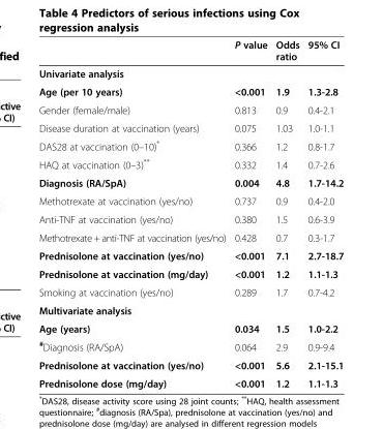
<table><thead><tr><td></td><td>P value</td><td>Odds ratio</td><td>95% CI</td></tr></thead><tbody><tr><td colspan="4">Univariate analysis</td></tr><tr><td>Age (per 10 years)</td><td>&lt;0.001</td><td>1.9</td><td>1.3-2.8</td></tr><tr><td>Gender (female/male)</td><td>0.813</td><td>0.9</td><td>0.4-2.1</td></tr><tr><td>Disease duration at vaccination (years)</td><td>0.075</td><td>1.03</td><td>1.0-1.1</td></tr><tr><td>DAS28 at vaccination (0–10)*</td><td>0.366</td><td>1.2</td><td>0.8-1.7</td></tr><tr><td>HAQ at vaccination (0–3)**</td><td>0.332</td><td>1.4</td><td>0.7-2.6</td></tr><tr><td>Diagnosis (RA/SpA)</td><td>0.004</td><td>4.8</td><td>1.7-14.2</td></tr><tr><td>Methotrexate at vaccination (yes/no)</td><td>0.737</td><td>0.9</td><td>0.4-2.0</td></tr><tr><td>Anti-TNF at vaccination (yes/no)</td><td>0.380</td><td>1.5</td><td>0.6-3.9</td></tr><tr><td>Methotrexate + anti-TNF at vaccination (yes/no)</td><td>0.428</td><td>0.7</td><td>0.3-1.7</td></tr><tr><td>Prednisolone at vaccination (yes/no)</td><td>&lt;0.001</td><td>7.1</td><td>2.7-18.7</td></tr><tr><td>Prednisolone at vaccination (mg/day)</td><td>&lt;0.001</td><td>1.2</td><td>1.1-1.3</td></tr><tr><td>Smoking at vaccination (yes/no)</td><td>0.289</td><td>1.7</td><td>0.7-4.2</td></tr><tr><td colspan="4">Multivariate analysis</td></tr><tr><td>Age (years)</td><td>0.034</td><td>1.5</td><td>1.0-2.2</td></tr><tr><td><sup>#</sup>Diagnosis (RA/SpA)</td><td>0.064</td><td>2.9</td><td>0.9-9.4</td></tr><tr><td>Prednisolone at vaccination (yes/no)</td><td>&lt;0.001</td><td>5.6</td><td>2.1-15.1</td></tr><tr><td>Prednisolone dose (mg/day)</td><td>&lt;0.001</td><td>1.2</td><td>1.1-1.3</td></tr></tbody></table>